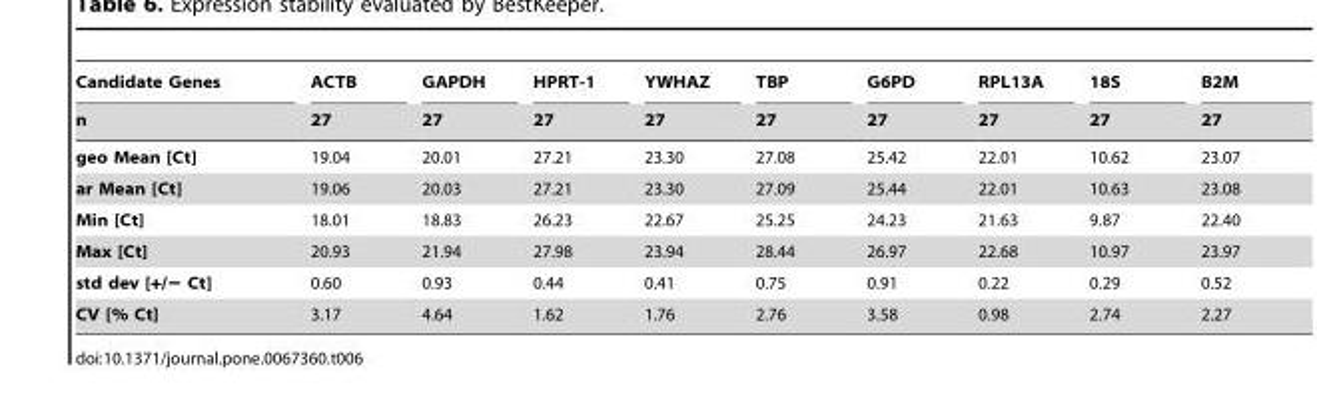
<table><thead><tr><td rowspan="2">Candidate Genes n</td><td rowspan="2">ACTB 27</td><td rowspan="2">GAPDH 27</td><td rowspan="2">HPRT-1 27</td><td rowspan="2">YWHAZ 27</td><td rowspan="2">TBP 27</td><td rowspan="2">G6PD 27</td><td rowspan="2">RPL13A 27</td><td rowspan="2">18S 27</td><td rowspan="2">B2M 27</td></tr><tr></tr></thead><tbody><tr><td>geo Mean [Ct]</td><td>19.04</td><td>20.01</td><td>27.21</td><td>23.30</td><td>27.08</td><td>25.42</td><td>22.01</td><td>10.62</td><td>23.07</td></tr><tr><td>ar Mean [Ct]</td><td>19.06</td><td>20.03</td><td>27.21</td><td>23.30</td><td>27.09</td><td>25.44</td><td>22.01</td><td>10.63</td><td>23.08</td></tr><tr><td>Min [Ct]</td><td>18.01</td><td>18.83</td><td>26.23</td><td>22.67</td><td>25.25</td><td>24.23</td><td>21.63</td><td>9.87</td><td>22.40</td></tr><tr><td>Max [Ct]</td><td>20.93</td><td>21.94</td><td>27.98</td><td>23.94</td><td>28.44</td><td>26.97</td><td>22.68</td><td>10.97</td><td>23.97</td></tr><tr><td>std dev [+/− Ct]</td><td>0.60</td><td>0.93</td><td>0.44</td><td>0.41</td><td>0.75</td><td>0.91</td><td>0.22</td><td>0.29</td><td>0.52</td></tr><tr><td>CV [% Ct]</td><td>3.17</td><td>4.64</td><td>1.62</td><td>1.76</td><td>2.76</td><td>3.58</td><td>0.98</td><td>2.74</td><td>2.27</td></tr></tbody></table>